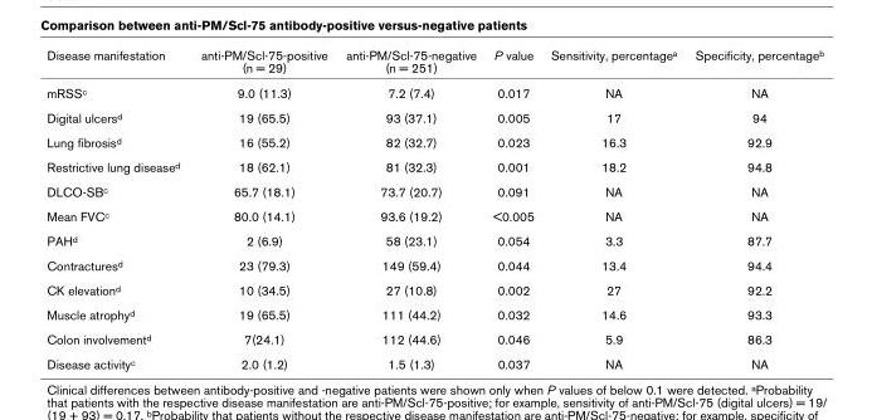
<table><thead><tr><td>Disease manifestation</td><td>anti-PM/Scl-75-positive (n = 29)</td><td>anti-PM/Scl-75-negative (n = 251)</td><td>P value</td><td>Sensitivity, percentage<sup>a</sup></td><td>Specificity, percentage<sup>b</sup></td></tr></thead><tbody><tr><td>mRSS<sup>c</sup></td><td>9.0 (11.3)</td><td>7.2 (7.4)</td><td>0.017</td><td>NA</td><td>NA</td></tr><tr><td>Digital ulcers<sup>d</sup></td><td>19 (65.5)</td><td>93 (37.1)</td><td>0.005</td><td>17</td><td>94</td></tr><tr><td>Lung fibrosis<sup>d</sup></td><td>16 (55.2)</td><td>82 (32.7)</td><td>0.023</td><td>16.3</td><td>92.9</td></tr><tr><td>Restrictive lung disease<sup>d</sup></td><td>18 (62.1)</td><td>81 (32.3)</td><td>0.001</td><td>18.2</td><td>94.8</td></tr><tr><td>DLCO-SB<sup>c</sup></td><td>65.7 (18.1)</td><td>73.7 (20.7)</td><td>0.091</td><td>NA</td><td>NA</td></tr><tr><td>Mean FVC<sup>c</sup></td><td>80.0 (14.1)</td><td>93.6 (19.2)</td><td>&lt;0.005</td><td>NA</td><td>NA</td></tr><tr><td>PAH<sup>d</sup></td><td>2 (6.9)</td><td>58 (23.1)</td><td>0.054</td><td>3.3</td><td>87.7</td></tr><tr><td>Contractures<sup>d</sup></td><td>23 (79.3)</td><td>149 (59.4)</td><td>0.044</td><td>13.4</td><td>94.4</td></tr><tr><td>CK elevation<sup>d</sup></td><td>10 (34.5)</td><td>27 (10.8)</td><td>0.002</td><td>27</td><td>92.2</td></tr><tr><td>Muscle atrophy<sup>d</sup></td><td>19 (65.5)</td><td>111 (44.2)</td><td>0.032</td><td>14.6</td><td>93.3</td></tr><tr><td>Colon involvement<sup>d</sup></td><td>7(24.1)</td><td>112 (44.6)</td><td>0.046</td><td>5.9</td><td>86.3</td></tr><tr><td>Disease activity<sup>c</sup></td><td>2.0 (1.2)</td><td>1.5 (1.3)</td><td>0.037</td><td>NA</td><td>NA</td></tr></tbody></table>